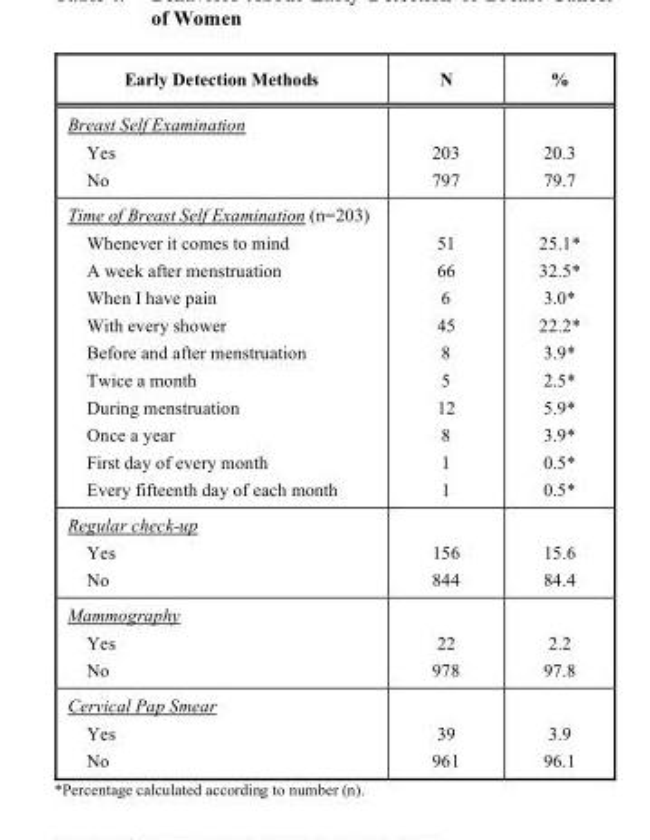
<table><thead><tr><td>Early Detection Methods</td><td>N</td><td>%</td></tr></thead><tbody><tr><td>Breast Self Examination Yes No</td><td>203 797</td><td>20.3 79.7</td></tr><tr><td>Time of Breast Self Examination (n=203) Whenever it comes to mind A week after menstruation When I have pain With every shower Before and after menstruation Twice a month During menstruation Once a year First day of every month Every fifteenth day of each month</td><td>51 66 6 45 8 5 12 8 1 1</td><td>25.1* 32.5* 3.0* 22.2* 3.9* 2.5* 5.9* 3.9* 0.5* 0.5*</td></tr><tr><td>Regular check-up Yes No</td><td>156 844</td><td>15.6 84.4</td></tr><tr><td>Mammography Yes No</td><td>22 978</td><td>2.2 97.8</td></tr><tr><td>Cervical Pap Smear Yes No</td><td>39 961</td><td>3.9 96.1</td></tr></tbody></table>